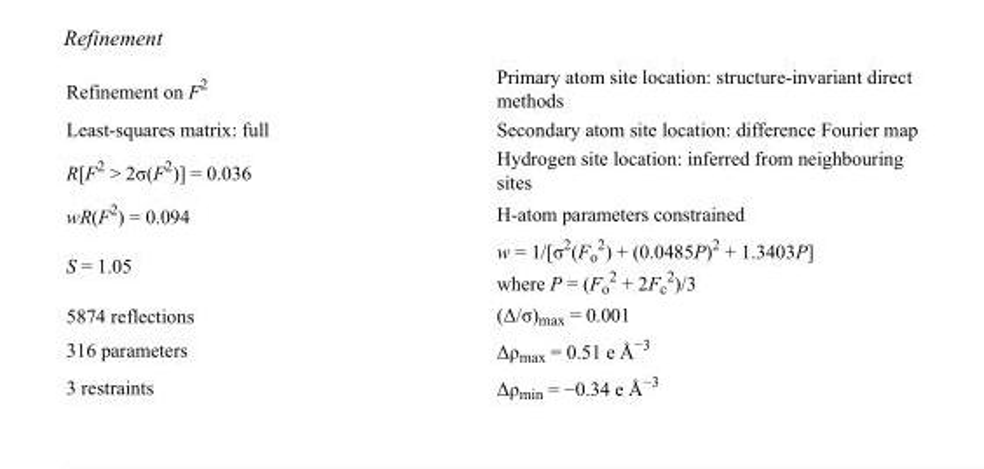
<table><tbody><tr><td>Refinement on F<sup>2</sup></td><td>Primary atom site location: structure-invariant direct methods</td></tr><tr><td>Least-squares matrix: full</td><td>Secondary atom site location: difference Fourier map</td></tr><tr><td>R[F<sup>2</sup> &gt; 2σ(F<sup>2</sup>)] = 0.036</td><td>Hydrogen site location: inferred from neighbouring sites</td></tr><tr><td>wR(F<sup>2</sup>) = 0.094</td><td>H-atom parameters constrained</td></tr><tr><td>S = 1.05</td><td>w = 1/[σ<sup>2</sup>(F<sub>o</sub> <sup>2</sup>) + (0.0485P)<sup>2</sup> + 1.3403P] where P = (F<sub>o</sub> <sup>2</sup> + 2F<sub>c</sub> <sup>2</sup>)/3</td></tr><tr><td>5874 reflections</td><td>(Δ/σ)<sub>max</sub> = 0.001</td></tr><tr><td>316 parameters</td><td>Δρ<sub>max</sub> = 0.51 e Å<sup>−3</sup></td></tr><tr><td>3 restraints</td><td>Δρ<sub>min</sub> = −0.34 e Å<sup>−3</sup></td></tr></tbody></table>